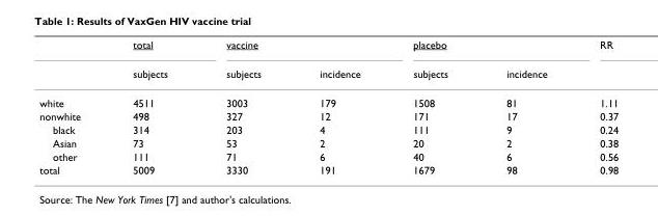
<table><thead><tr><td rowspan="2"></td><td rowspan="2">total subjects</td><td colspan="2">vaccine</td><td colspan="2">placebo</td><td rowspan="2">RR</td></tr><tr><td>subjects</td><td>incidence</td><td>subjects</td><td>incidence</td></tr></thead><tbody><tr><td>white</td><td>4511</td><td>3003</td><td>179</td><td>1508</td><td>81</td><td>1.11</td></tr><tr><td>nonwhite</td><td>498</td><td>327</td><td>12</td><td>171</td><td>17</td><td>0.37</td></tr><tr><td>black</td><td>314</td><td>203</td><td>4</td><td>111</td><td>9</td><td>0.24</td></tr><tr><td>Asian</td><td>73</td><td>53</td><td>2</td><td>20</td><td>2</td><td>0.38</td></tr><tr><td>other</td><td>111</td><td>71</td><td>6</td><td>40</td><td>6</td><td>0.56</td></tr><tr><td>total</td><td>5009</td><td>3330</td><td>191</td><td>1679</td><td>98</td><td>0.98</td></tr></tbody></table>